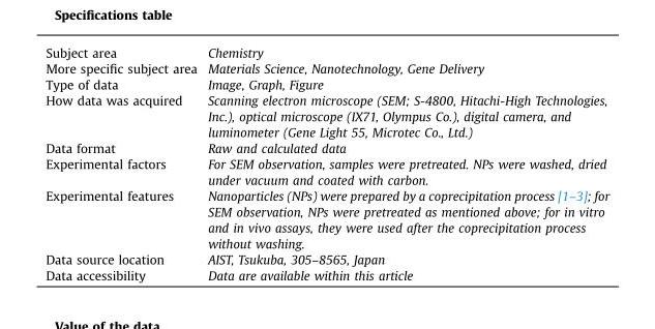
<table><tbody><tr><td>Subject area</td><td>Chemistry</td></tr><tr><td>More specific subject area</td><td>Materials Science, Nanotechnology, Gene Delivery</td></tr><tr><td>Type of data</td><td>Image, Graph, Figure</td></tr><tr><td>How data was acquired</td><td>Scanning electron microscope (SEM; S-4800, Hitachi-High Technologies, Inc.), optical microscope (IX71, Olympus Co.), digital camera, and luminometer (Gene Light 55, Microtec Co., Ltd.)</td></tr><tr><td>Data format</td><td>Raw and calculated data</td></tr><tr><td>Experimental factors</td><td>For SEM observation, samples were pretreated. NPs were washed, dried under vacuum and coated with carbon.</td></tr><tr><td>Experimental features</td><td>Nanoparticles (NPs) were prepared by a coprecipitation process [1–3]; for SEM observation, NPs were pretreated as mentioned above; for in vitro and in vivo assays, they were used after the coprecipitation process without washing.</td></tr><tr><td>Data source location</td><td>AIST, Tsukuba, 305–8565, Japan</td></tr><tr><td>Data accessibility</td><td>Data are available within this article</td></tr></tbody></table>